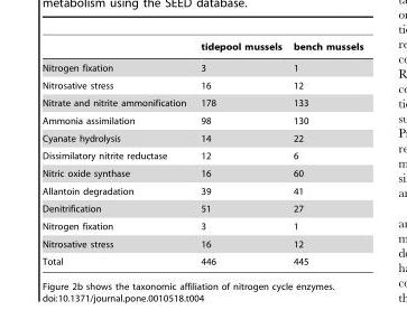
<table><thead><tr><td></td><td>tidepool mussels</td><td>bench mussels</td></tr></thead><tbody><tr><td>Nitrogen fixation</td><td>3</td><td>1</td></tr><tr><td>Nitrosative stress</td><td>16</td><td>12</td></tr><tr><td>Nitrate and nitrite ammonification</td><td>178</td><td>133</td></tr><tr><td>Ammonia assimilation</td><td>98</td><td>130</td></tr><tr><td>Cyanate hydrolysis</td><td>14</td><td>22</td></tr><tr><td>Dissimilatory nitrite reductase</td><td>12</td><td>6</td></tr><tr><td>Nitric oxide synthase</td><td>16</td><td>60</td></tr><tr><td>Allantoin degradation</td><td>39</td><td>41</td></tr><tr><td>Denitrification</td><td>51</td><td>27</td></tr><tr><td>Nitrogen fixation</td><td>3</td><td>1</td></tr><tr><td>Nitrosative stress</td><td>16</td><td>12</td></tr><tr><td>Total</td><td>446</td><td>445</td></tr></tbody></table>